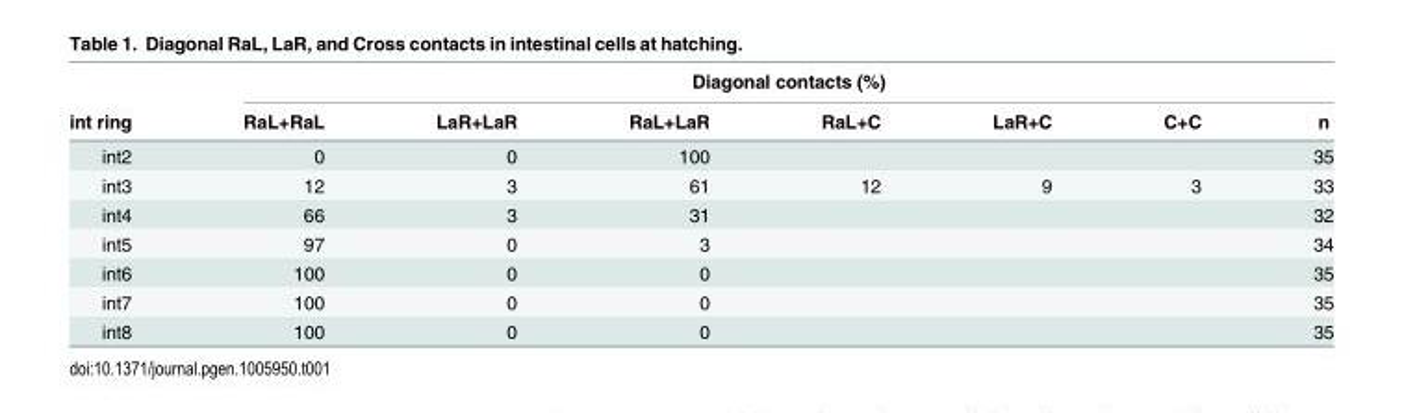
<table><thead><tr><td rowspan="2">int ring</td><td colspan="7">Diagonal contacts (%)</td></tr><tr><td>RaL+RaL</td><td>LaR+LaR</td><td>RaL+LaR</td><td>RaL+C</td><td>LaR+C</td><td>C+C</td><td>n</td></tr></thead><tbody><tr><td>int2</td><td>0</td><td>0</td><td>100</td><td></td><td></td><td></td><td>35</td></tr><tr><td>int3</td><td>12</td><td>3</td><td>61</td><td>12</td><td>9</td><td>3</td><td>33</td></tr><tr><td>int4</td><td>66</td><td>3</td><td>31</td><td></td><td></td><td></td><td>32</td></tr><tr><td>int5</td><td>97</td><td>0</td><td>3</td><td></td><td></td><td></td><td>34</td></tr><tr><td>int6</td><td>100</td><td>0</td><td>0</td><td></td><td></td><td></td><td>35</td></tr><tr><td>int7</td><td>100</td><td>0</td><td>0</td><td></td><td></td><td></td><td>35</td></tr><tr><td>int8</td><td>100</td><td>0</td><td>0</td><td></td><td></td><td></td><td>35</td></tr></tbody></table>